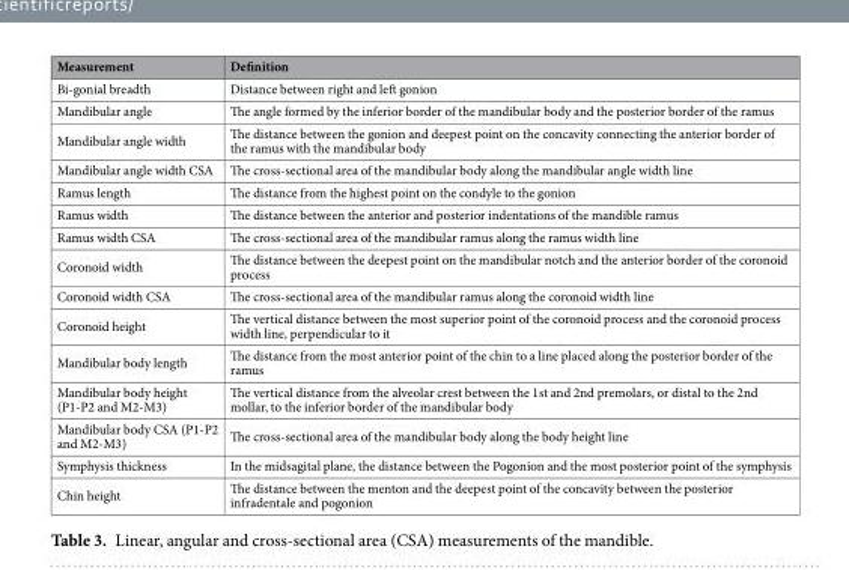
<table><thead><tr><td>Measurement</td><td>Definition</td></tr></thead><tbody><tr><td>Bi-gonial breadth</td><td>Distance between right and left gonion</td></tr><tr><td>Mandibular angle</td><td>The angle formed by the inferior border of the mandibular body and the posterior border of the ramus</td></tr><tr><td>Mandibular angle width</td><td>The distance between the gonion and deepest point on the concavity connecting the anterior border of the ramus with the mandibular body</td></tr><tr><td>Mandibular angle width CSA</td><td>The cross-sectional area of the mandibular body along the mandibular angle width line</td></tr><tr><td>Ramus length</td><td>The distance from the highest point on the condyle to the gonion</td></tr><tr><td>Ramus width</td><td>The distance between the anterior and posterior indentations of the mandible ramus</td></tr><tr><td>Ramus width CSA</td><td>The cross-sectional area of the mandibular ramus along the ramus width line</td></tr><tr><td>Coronoid width</td><td>The distance between the deepest point on the mandibular notch and the anterior border of the coronoid process</td></tr><tr><td>Coronoid width CSA</td><td>The cross-sectional area of the mandibular ramus along the coronoid width line</td></tr><tr><td>Coronoid height</td><td>The vertical distance between the most superior point of the coronoid process and the coronoid process width line, perpendicular to it</td></tr><tr><td>Mandibular body length</td><td>The distance from the most anterior point of the chin to a line placed along the posterior border of the ramus</td></tr><tr><td>Mandibular body height (P1-P2 and M2-M3)</td><td>The vertical distance from the alveolar crest between the 1st and 2nd premolars, or distal to the 2nd mollar, to the inferior border of the mandibular body</td></tr><tr><td>Mandibular body CSA (P1-P2 and M2-M3)</td><td>The cross-sectional area of the mandibular body along the body height line</td></tr><tr><td>Symphysis thickness</td><td>In the midsagital plane, the distance between the Pogonion and the most posterior point of the symphysis</td></tr><tr><td>Chin height</td><td>The distance between the menton and the deepest point of the concavity between the posterior infradentale and pogonion</td></tr></tbody></table>